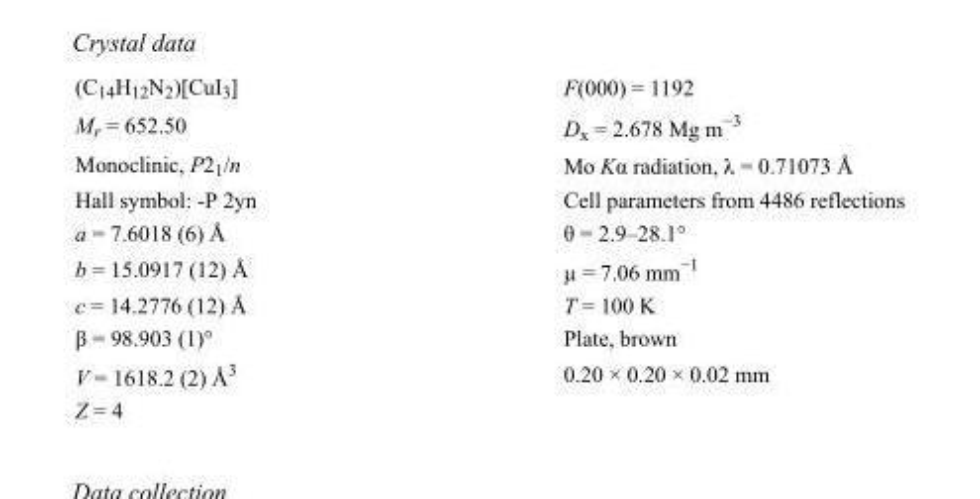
<table><tbody><tr><td>(C<sub>14</sub>H<sub>12</sub>N<sub>2</sub>)[CuI<sub>3</sub>]</td><td>F(000) = 1192</td></tr><tr><td>M<sub>r</sub> = 652.50</td><td>D<sub>x</sub> = 2.678 Mg m<sup>−3</sup></td></tr><tr><td>Monoclinic, P2<sub>1</sub>/n</td><td>Mo Kα radiation, λ = 0.71073 Å</td></tr><tr><td>Hall symbol: -P 2yn</td><td>Cell parameters from 4486 reflections</td></tr><tr><td>a = 7.6018 (6) Å</td><td>θ = 2.9–28.1°</td></tr><tr><td>b = 15.0917 (12) Å</td><td>µ = 7.06 mm<sup>−1</sup></td></tr><tr><td>c = 14.2776 (12) Å</td><td>T = 100 K</td></tr><tr><td>β = 98.903 (1)°</td><td>Plate, brown</td></tr><tr><td>V = 1618.2 (2) Å<sup>3</sup></td><td>0.20 × 0.20 × 0.02 mm</td></tr><tr><td>Z = 4</td><td></td></tr></tbody></table>